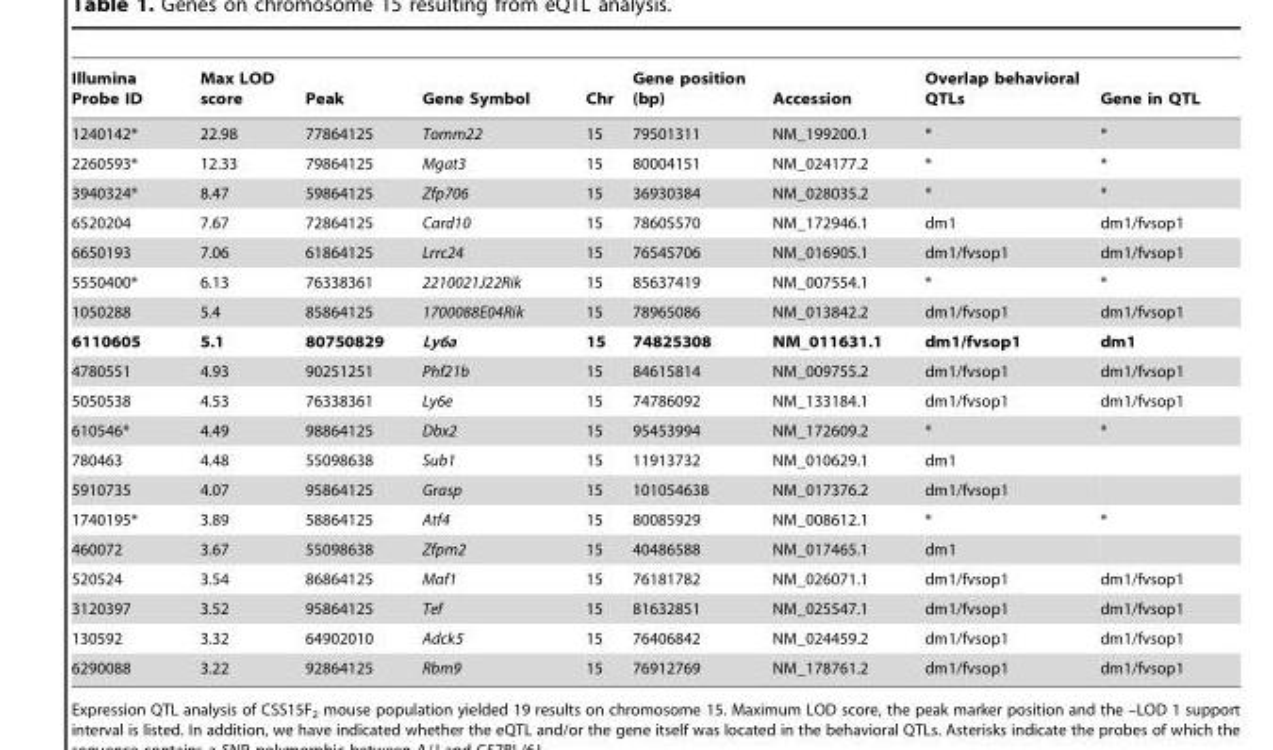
<table><thead><tr><td>Illumina Probe ID</td><td>Max LOD score</td><td>Peak</td><td>Gene Symbol</td><td>Chr</td><td>Gene position (bp)</td><td>Accession</td><td>Overlap behavioral QTLs</td><td>Gene in QTL</td></tr></thead><tbody><tr><td>1240142*</td><td>22.98</td><td>77864125</td><td>Tomm22</td><td>15</td><td>79501311</td><td>NM_199200.1</td><td>*</td><td>*</td></tr><tr><td>2260593*</td><td>12.33</td><td>79864125</td><td>Mgat3</td><td>15</td><td>80004151</td><td>NM_024177.2</td><td>*</td><td>*</td></tr><tr><td>3940324*</td><td>8.47</td><td>59864125</td><td>Zfp706</td><td>15</td><td>36930384</td><td>NM_028035.2</td><td>*</td><td>*</td></tr><tr><td>6520204</td><td>7.67</td><td>72864125</td><td>Card10</td><td>15</td><td>78605570</td><td>NM_172946.1</td><td>dm1</td><td>dm1/fvsop1</td></tr><tr><td>6650193</td><td>7.06</td><td>61864125</td><td>Lrrc24</td><td>15</td><td>76545706</td><td>NM_016905.1</td><td>dm1/fvsop1</td><td>dm1/fvsop1</td></tr><tr><td>5550400*</td><td>6.13</td><td>76338361</td><td>2210021J22Rik</td><td>15</td><td>85637419</td><td>NM_007554.1</td><td>*</td><td>*</td></tr><tr><td>1050288</td><td>5.4</td><td>85864125</td><td>1700088E04Rik</td><td>15</td><td>78965086</td><td>NM_013842.2</td><td>dm1/fvsop1</td><td>dm1/fvsop1</td></tr><tr><td>6110605</td><td>5.1</td><td>80750829</td><td>Ly6a</td><td>15</td><td>74825308</td><td>NM_011631.1</td><td>dm1/fvsop1</td><td>dm1</td></tr><tr><td>4780551</td><td>4.93</td><td>90251251</td><td>Phf21b</td><td>15</td><td>84615814</td><td>NM_009755.2</td><td>dm1/fvsop1</td><td>dm1/fvsop1</td></tr><tr><td>5050538</td><td>4.53</td><td>76338361</td><td>Ly6e</td><td>15</td><td>74786092</td><td>NM_133184.1</td><td>dm1/fvsop1</td><td>dm1/fvsop1</td></tr><tr><td>610546*</td><td>4.49</td><td>98864125</td><td>Dbx2</td><td>15</td><td>95453994</td><td>NM_172609.2</td><td>*</td><td>*</td></tr><tr><td>780463</td><td>4.48</td><td>55098638</td><td>Sub1</td><td>15</td><td>11913732</td><td>NM_010629.1</td><td>dm1</td><td></td></tr><tr><td>5910735</td><td>4.07</td><td>95864125</td><td>Grasp</td><td>15</td><td>101054638</td><td>NM_017376.2</td><td>dm1/fvsop1</td><td></td></tr><tr><td>1740195*</td><td>3.89</td><td>58864125</td><td>Atf4</td><td>15</td><td>80085929</td><td>NM_008612.1</td><td>*</td><td>*</td></tr><tr><td>460072</td><td>3.67</td><td>55098638</td><td>Zfpm2</td><td>15</td><td>40486588</td><td>NM_017465.1</td><td>dm1</td><td></td></tr><tr><td>520524</td><td>3.54</td><td>86864125</td><td>Maf1</td><td>15</td><td>76181782</td><td>NM_026071.1</td><td>dm1/fvsop1</td><td>dm1/fvsop1</td></tr><tr><td>3120397</td><td>3.52</td><td>95864125</td><td>Tef</td><td>15</td><td>81632851</td><td>NM_025547.1</td><td>dm1/fvsop1</td><td>dm1/fvsop1</td></tr><tr><td>130592</td><td>3.32</td><td>64902010</td><td>Adck5</td><td>15</td><td>76406842</td><td>NM_024459.2</td><td>dm1/fvsop1</td><td>dm1/fvsop1</td></tr><tr><td>6290088</td><td>3.22</td><td>92864125</td><td>Rbm9</td><td>15</td><td>76912769</td><td>NM_178761.2</td><td>dm1/fvsop1</td><td>dm1/fvsop1</td></tr></tbody></table>